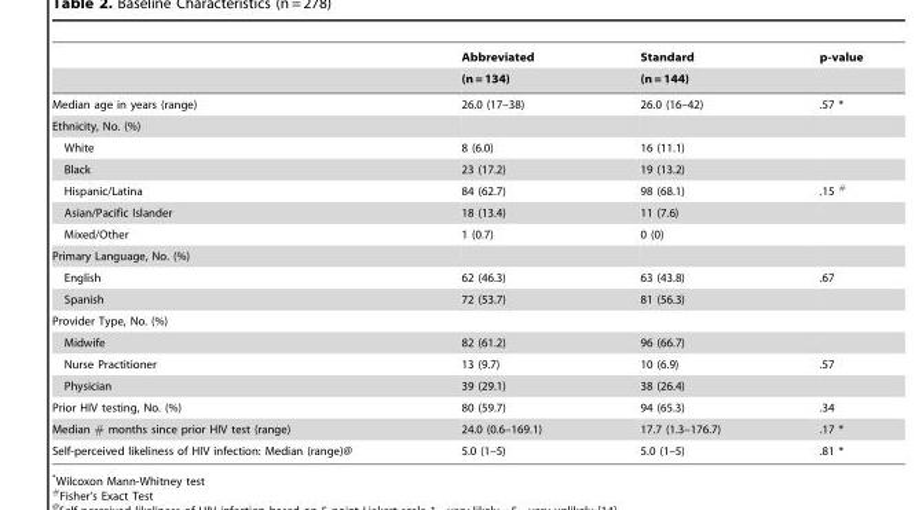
<table><thead><tr><td rowspan="2"></td><td rowspan="2">Abbreviated (n = 134)</td><td rowspan="2">Standard (n = 144)</td><td rowspan="2">p-value</td></tr><tr></tr></thead><tbody><tr><td>Median age in years (range)</td><td>26.0 (17–38)</td><td>26.0 (16–42)</td><td>.57 *</td></tr><tr><td colspan="4">Ethnicity, No. (%)</td></tr><tr><td>White</td><td>8 (6.0)</td><td>16 (11.1)</td><td></td></tr><tr><td>Black</td><td>23 (17.2)</td><td>19 (13.2)</td><td></td></tr><tr><td>Hispanic/Latina</td><td>84 (62.7)</td><td>98 (68.1)</td><td>.15 #</td></tr><tr><td>Asian/Pacific Islander</td><td>18 (13.4)</td><td>11 (7.6)</td><td></td></tr><tr><td>Mixed/Other</td><td>1 (0.7)</td><td>0 (0)</td><td></td></tr><tr><td colspan="4">Primary Language, No. (%)</td></tr><tr><td>English</td><td>62 (46.3)</td><td>63 (43.8)</td><td>.67</td></tr><tr><td>Spanish</td><td>72 (53.7)</td><td>81 (56.3)</td><td></td></tr><tr><td colspan="4">Provider Type, No. (%)</td></tr><tr><td>Midwife</td><td>82 (61.2)</td><td>96 (66.7)</td><td></td></tr><tr><td>Nurse Practitioner</td><td>13 (9.7)</td><td>10 (6.9)</td><td>.57</td></tr><tr><td>Physician</td><td>39 (29.1)</td><td>38 (26.4)</td><td></td></tr><tr><td>Prior HIV testing, No. (%)</td><td>80 (59.7)</td><td>94 (65.3)</td><td>.34</td></tr><tr><td>Median # months since prior HIV test (range)</td><td>24.0 (0.6–169.1)</td><td>17.7 (1.3–176.7)</td><td>.17 *</td></tr><tr><td>Self-perceived likeliness of HIV infection: Median (range)@</td><td>5.0 (1–5)</td><td>5.0 (1–5)</td><td>.81 *</td></tr></tbody></table>